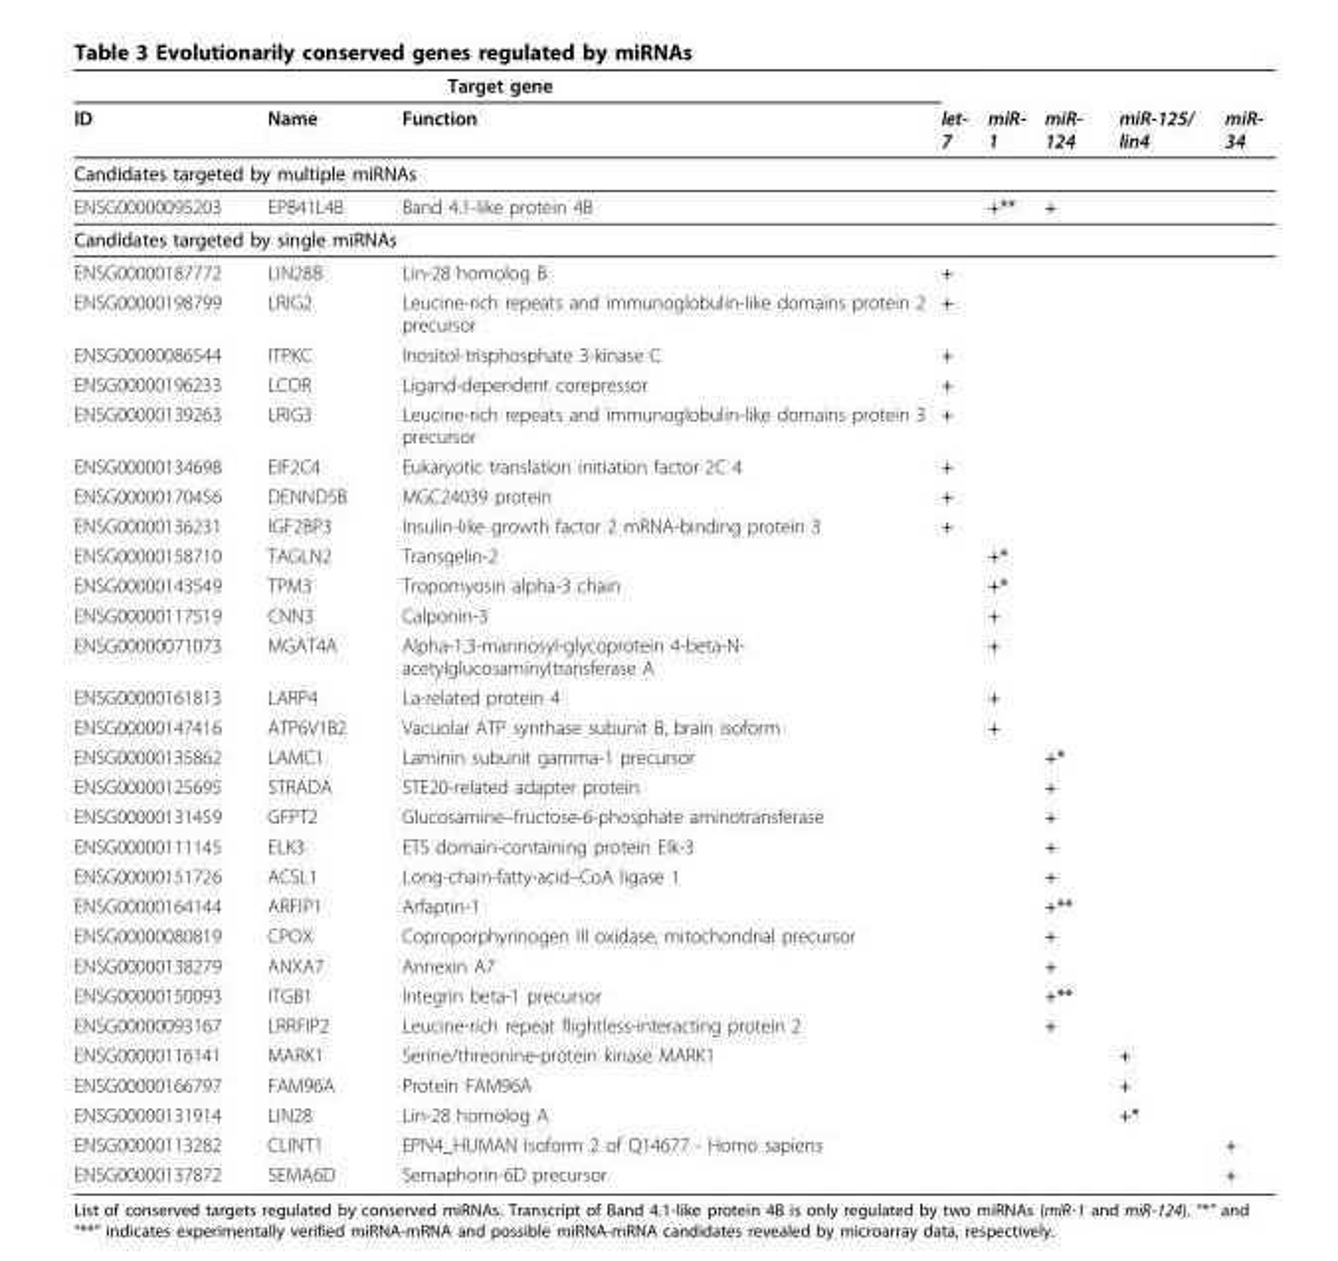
<table><thead><tr><td colspan="3">Target gene</td><td rowspan="2">let- 7</td><td rowspan="2">miR- 1</td><td rowspan="2">miR- 124</td><td rowspan="2">miR-125/ lin4</td><td rowspan="2">miR- 34</td></tr><tr><td>ID</td><td>Name</td><td>Function</td></tr></thead><tbody><tr><td colspan="8">Candidates targeted by multiple miRNAs</td></tr><tr><td>ENSG00000095203</td><td>EPB41L4B</td><td>Band 4.1-like protein 4B</td><td></td><td>+**</td><td>+</td><td></td><td></td></tr><tr><td colspan="8">Candidates targeted by single miRNAs</td></tr><tr><td>ENSG00000187772</td><td>LIN28B</td><td>Lin-28 homolog B</td><td>+</td><td></td><td></td><td></td><td></td></tr><tr><td>ENSG00000198799</td><td>LRIG2</td><td>Leucine-rich repeats and immunoglobulin-like domains protein 2 precursor</td><td>+</td><td></td><td></td><td></td><td></td></tr><tr><td>ENSG00000086544</td><td>ITPKC</td><td>Inositol-trisphosphate 3-kinase C</td><td>+</td><td></td><td></td><td></td><td></td></tr><tr><td>ENSG00000196233</td><td>LCOR</td><td>Ligand-dependent corepressor</td><td>+</td><td></td><td></td><td></td><td></td></tr><tr><td>ENSG00000139263</td><td>LRIG3</td><td>Leucine-rich repeats and immunoglobulin-like domains protein 3 precursor</td><td>+</td><td></td><td></td><td></td><td></td></tr><tr><td>ENSG00000134698</td><td>EIF2C4</td><td>Eukaryotic translation initiation factor 2C 4</td><td>+</td><td></td><td></td><td></td><td></td></tr><tr><td>ENSG00000170456</td><td>DENND5B</td><td>MGC24039 protein</td><td>+</td><td></td><td></td><td></td><td></td></tr><tr><td>ENSG00000136231</td><td>IGF2BP3</td><td>Insulin-like growth factor 2 mRNA-binding protein 3</td><td>+</td><td></td><td></td><td></td><td></td></tr><tr><td>ENSG00000158710</td><td>TAGLN2</td><td>Transgelin-2</td><td></td><td>+*</td><td></td><td></td><td></td></tr><tr><td>ENSG00000143549</td><td>TPM3</td><td>Tropomyosin alpha-3 chain</td><td></td><td>+*</td><td></td><td></td><td></td></tr><tr><td>ENSG00000117519</td><td>CNN3</td><td>Calponin-3</td><td></td><td>+</td><td></td><td></td><td></td></tr><tr><td>ENSG00000071073</td><td>MGAT4A</td><td>Alpha-1,3-mannosyl-glycoprotein 4-beta-N- acetylglucosaminyltransferase A</td><td></td><td>+</td><td></td><td></td><td></td></tr><tr><td>ENSG00000161813</td><td>LARP4</td><td>La-related protein 4</td><td></td><td>+</td><td></td><td></td><td></td></tr><tr><td>ENSG00000147416</td><td>ATP6V1B2</td><td>Vacuolar ATP synthase subunit B, brain isoform</td><td></td><td>+</td><td></td><td></td><td></td></tr><tr><td>ENSG00000135862</td><td>LAMC1</td><td>Laminin subunit gamma-1 precursor</td><td></td><td></td><td>+*</td><td></td><td></td></tr><tr><td>ENSG00000125695</td><td>STRADA</td><td>STE20-related adapter protein</td><td></td><td></td><td>+</td><td></td><td></td></tr><tr><td>ENSG00000131459</td><td>GFPT2</td><td>Glucosamine–fructose-6-phosphate aminotransferase</td><td></td><td></td><td>+</td><td></td><td></td></tr><tr><td>ENSG00000111145</td><td>ELK3</td><td>ETS domain-containing protein Elk-3</td><td></td><td></td><td>+</td><td></td><td></td></tr><tr><td>ENSG00000151726</td><td>ACSL1</td><td>Long-chain-fatty-acid–CoA ligase 1</td><td></td><td></td><td>+</td><td></td><td></td></tr><tr><td>ENSG00000164144</td><td>ARFIP1</td><td>Arfaptin-1</td><td></td><td></td><td>+**</td><td></td><td></td></tr><tr><td>ENSG00000080819</td><td>CPOX</td><td>Coproporphyrinogen III oxidase, mitochondrial precursor</td><td></td><td></td><td>+</td><td></td><td></td></tr><tr><td>ENSG00000138279</td><td>ANXA7</td><td>Annexin A7</td><td></td><td></td><td>+</td><td></td><td></td></tr><tr><td>ENSG00000150093</td><td>ITGB1</td><td>Integrin beta-1 precursor</td><td></td><td></td><td>+**</td><td></td><td></td></tr><tr><td>ENSG00000093167</td><td>LRRFIP2</td><td>Leucine-rich repeat flightless-interacting protein 2</td><td></td><td></td><td>+</td><td></td><td></td></tr><tr><td>ENSG00000116141</td><td>MARK1</td><td>Serine/threonine-protein kinase MARK1</td><td></td><td></td><td></td><td>+</td><td></td></tr><tr><td>ENSG00000166797</td><td>FAM96A</td><td>Protein FAM96A</td><td></td><td></td><td></td><td>+</td><td></td></tr><tr><td>ENSG00000131914</td><td>LIN28</td><td>Lin-28 homolog A</td><td></td><td></td><td></td><td>+*</td><td></td></tr><tr><td>ENSG00000113282</td><td>CLINT1</td><td>EPN4_HUMAN Isoform 2 of Q14677 - Homo sapiens</td><td></td><td></td><td></td><td></td><td>+</td></tr><tr><td>ENSG00000137872</td><td>SEMA6D</td><td>Semaphorin-6D precursor</td><td></td><td></td><td></td><td></td><td>+</td></tr></tbody></table>